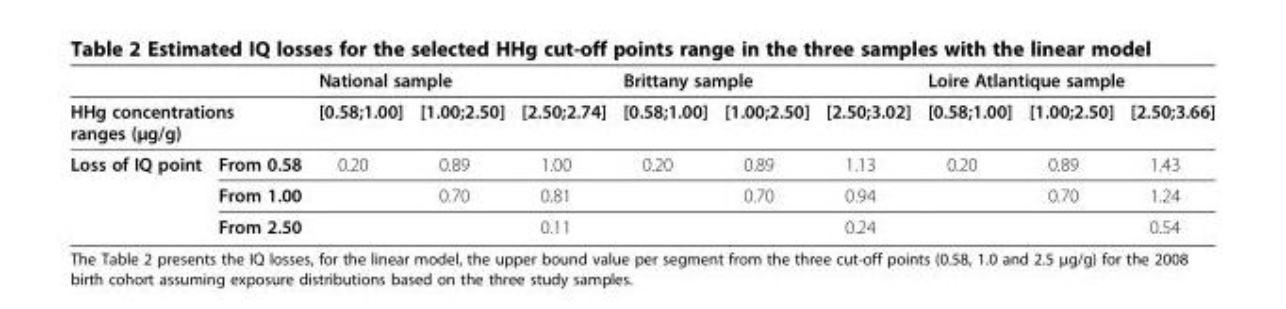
<table><thead><tr><td></td><td></td><td colspan="3">National sample</td><td colspan="3">Brittany sample</td><td colspan="3">Loire Atlantique sample</td></tr><tr><td colspan="2">HHg concentrations ranges (μg/g)</td><td>[0.58;1.00]</td><td>[1.00;2.50]</td><td>[2.50;2.74]</td><td>[0.58;1.00]</td><td>[1.00;2.50]</td><td>[2.50;3.02]</td><td>[0.58;1.00]</td><td>[1.00;2.50]</td><td>[2.50;3.66]</td></tr></thead><tbody><tr><td rowspan="3">Loss of IQ point</td><td>From 0.58</td><td>0.20</td><td>0.89</td><td>1.00</td><td>0.20</td><td>0.89</td><td>1.13</td><td>0.20</td><td>0.89</td><td>1.43</td></tr><tr><td>From 1.00</td><td></td><td>0.70</td><td>0.81</td><td></td><td>0.70</td><td>0.94</td><td></td><td>0.70</td><td>1.24</td></tr><tr><td>From 2.50</td><td></td><td></td><td>0.11</td><td></td><td></td><td>0.24</td><td></td><td></td><td>0.54</td></tr></tbody></table>